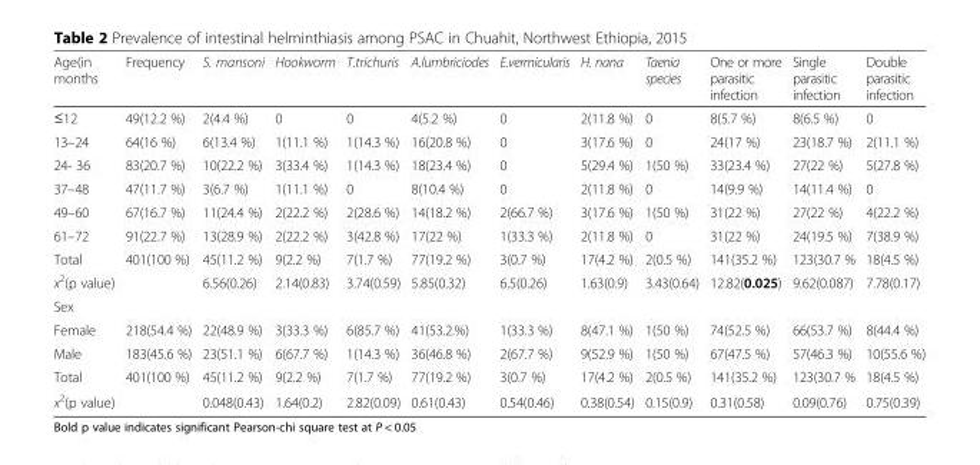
<table><thead><tr><td>Age(in months</td><td>Frequency</td><td>S. mansoni</td><td>Hookworm</td><td>T.trichuris</td><td>A.lumbriciodes</td><td>E.vermicularis</td><td>H. nana</td><td>Taenia species</td><td>One or more parasitic infection</td><td>Single parasitic infection</td><td>Double parasitic infection</td></tr></thead><tbody><tr><td>≤12</td><td>49(12.2 %)</td><td>2(4.4 %)</td><td>0</td><td>0</td><td>4(5.2 %)</td><td>0</td><td>2(11.8 %)</td><td>0</td><td>8(5.7 %)</td><td>8(6.5 %)</td><td>0</td></tr><tr><td>13–24</td><td>64(16 %)</td><td>6(13.4 %)</td><td>1(11.1 %)</td><td>1(14.3 %)</td><td>16(20.8 %)</td><td>0</td><td>3(17.6 %)</td><td>0</td><td>24(17 %)</td><td>23(18.7 %)</td><td>2(11.1 %)</td></tr><tr><td>24- 36</td><td>83(20.7 %)</td><td>10(22.2 %)</td><td>3(33.4 %)</td><td>1(14.3 %)</td><td>18(23.4 %)</td><td>0</td><td>5(29.4 %)</td><td>1(50 %)</td><td>33(23.4 %)</td><td>27(22 %)</td><td>5(27.8 %)</td></tr><tr><td>37–48</td><td>47(11.7 %)</td><td>3(6.7 %)</td><td>1(11.1 %)</td><td>0</td><td>8(10.4 %)</td><td>0</td><td>2(11.8 %)</td><td>0</td><td>14(9.9 %)</td><td>14(11.4 %)</td><td>0</td></tr><tr><td>49–60</td><td>67(16.7 %)</td><td>11(24.4 %)</td><td>2(22.2 %)</td><td>2(28.6 %)</td><td>14(18.2 %)</td><td>2(66.7 %)</td><td>3(17.6 %)</td><td>1(50 %)</td><td>31(22 %)</td><td>27(22 %)</td><td>4(22.2 %)</td></tr><tr><td>61–72</td><td>91(22.7 %)</td><td>13(28.9 %)</td><td>2(22.2 %)</td><td>3(42.8 %)</td><td>17(22 %)</td><td>1(33.3 %)</td><td>2(11.8 %)</td><td>0</td><td>31(22 %)</td><td>24(19.5 %)</td><td>7(38.9 %)</td></tr><tr><td>Total</td><td>401(100 %)</td><td>45(11.2 %)</td><td>9(2.2 %)</td><td>7(1.7 %)</td><td>77(19.2 %)</td><td>3(0.7 %)</td><td>17(4.2 %)</td><td>2(0.5 %)</td><td>141(35.2 %)</td><td>123(30.7 %</td><td>18(4.5 %)</td></tr><tr><td>x<sup>2</sup>(p value)</td><td></td><td>6.56(0.26)</td><td>2.14(0.83)</td><td>3.74(0.59)</td><td>5.85(0.32)</td><td>6.5(0.26)</td><td>1.63(0.9)</td><td>3.43(0.64)</td><td>12.82(0.025)</td><td>9.62(0.087)</td><td>7.78(0.17)</td></tr><tr><td colspan="12">Sex</td></tr><tr><td>Female</td><td>218(54.4 %)</td><td>22(48.9 %)</td><td>3(33.3 %)</td><td>6(85.7 %)</td><td>41(53.2.%)</td><td>1(33.3 %)</td><td>8(47.1 %)</td><td>1(50 %)</td><td>74(52.5 %)</td><td>66(53.7 %)</td><td>8(44.4 %)</td></tr><tr><td>Male</td><td>183(45.6 %)</td><td>23(51.1 %)</td><td>6(67.7 %)</td><td>1(14.3 %)</td><td>36(46.8 %)</td><td>2(67.7 %)</td><td>9(52.9 %)</td><td>1(50 %)</td><td>67(47.5 %)</td><td>57(46.3 %)</td><td>10(55.6 %)</td></tr><tr><td>Total</td><td>401(100 %)</td><td>45(11.2 %)</td><td>9(2.2 %)</td><td>7(1.7 %)</td><td>77(19.2 %)</td><td>3(0.7 %)</td><td>17(4.2 %)</td><td>2(0.5 %)</td><td>141(35.2 %)</td><td>123(30.7 %</td><td>18(4.5 %)</td></tr><tr><td>x<sup>2</sup>(p value)</td><td></td><td>0.048(0.43)</td><td>1.64(0.2)</td><td>2.82(0.09)</td><td>0.61(0.43)</td><td>0.54(0.46)</td><td>0.38(0.54)</td><td>0.15(0.9)</td><td>0.31(0.58)</td><td>0.09(0.76)</td><td>0.75(0.39)</td></tr></tbody></table>